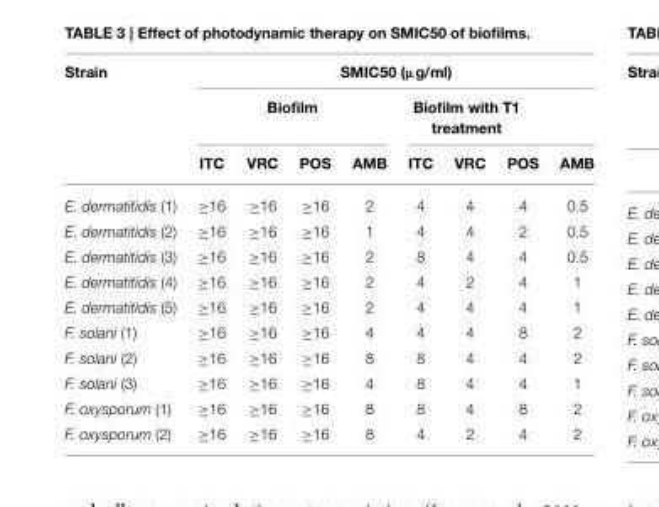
<table><thead><tr><td rowspan="3">Strain</td><td colspan="8">SMIC50 (µg/ml)</td></tr><tr><td colspan="4">Biofilm</td><td colspan="4">Biofilm with T1 treatment</td></tr><tr><td>ITC</td><td>VRC</td><td>POS</td><td>AMB</td><td>ITC</td><td>VRC</td><td>POS</td><td>AMB</td></tr></thead><tbody><tr><td>E. dermatitidis (1)</td><td>≥16</td><td>≥16</td><td>≥16</td><td>2</td><td>4</td><td>4</td><td>4</td><td>0.5</td></tr><tr><td>E. dermatitidis (2)</td><td>≥16</td><td>≥16</td><td>≥16</td><td>1</td><td>4</td><td>4</td><td>2</td><td>0.5</td></tr><tr><td>E. dermatitidis (3)</td><td>≥16</td><td>≥16</td><td>≥16</td><td>2</td><td>8</td><td>4</td><td>4</td><td>0.5</td></tr><tr><td>E. dermatitidis (4)</td><td>≥16</td><td>≥16</td><td>≥16</td><td>2</td><td>4</td><td>2</td><td>4</td><td>1</td></tr><tr><td>E. dermatitidis (5)</td><td>≥16</td><td>≥16</td><td>≥16</td><td>2</td><td>4</td><td>4</td><td>4</td><td>1</td></tr><tr><td>F. solani (1)</td><td>≥16</td><td>≥16</td><td>≥16</td><td>4</td><td>4</td><td>4</td><td>8</td><td>2</td></tr><tr><td>F. solani (2)</td><td>≥16</td><td>≥16</td><td>≥16</td><td>8</td><td>8</td><td>4</td><td>4</td><td>2</td></tr><tr><td>F. solani (3)</td><td>≥16</td><td>≥16</td><td>≥16</td><td>4</td><td>8</td><td>4</td><td>4</td><td>1</td></tr><tr><td>F. oxysporum (1)</td><td>≥16</td><td>≥16</td><td>≥16</td><td>8</td><td>8</td><td>4</td><td>8</td><td>2</td></tr><tr><td>F. oxysporum (2)</td><td>≥16</td><td>≥16</td><td>≥16</td><td>8</td><td>4</td><td>2</td><td>4</td><td>2</td></tr></tbody></table>